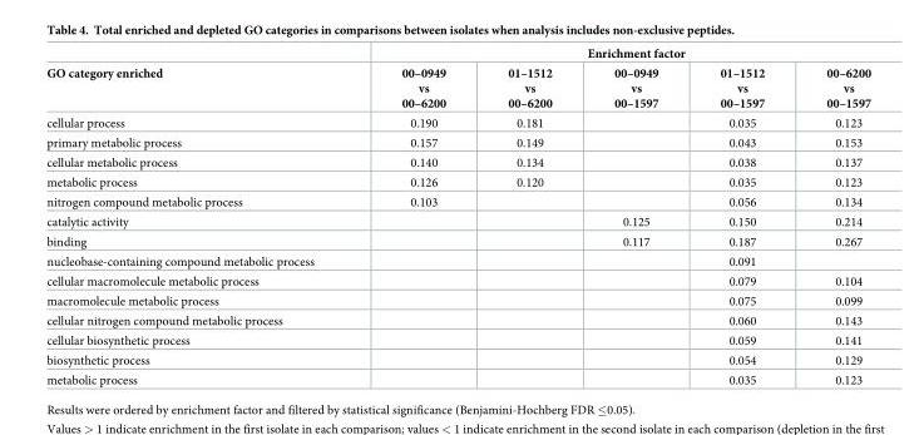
<table><thead><tr><td rowspan="2">GO category enriched</td><td colspan="5">Enrichment factor</td></tr><tr><td>00–0949 vs 00–6200</td><td>01–1512 vs 00–6200</td><td>00–0949 vs 00–1597</td><td>01–1512 vs 00–1597</td><td>00–6200 vs 00–1597</td></tr></thead><tbody><tr><td>cellular process</td><td>0.190</td><td>0.181</td><td></td><td>0.035</td><td>0.123</td></tr><tr><td>primary metabolic process</td><td>0.157</td><td>0.149</td><td></td><td>0.043</td><td>0.153</td></tr><tr><td>cellular metabolic process</td><td>0.140</td><td>0.134</td><td></td><td>0.038</td><td>0.137</td></tr><tr><td>metabolic process</td><td>0.126</td><td>0.120</td><td></td><td>0.035</td><td>0.123</td></tr><tr><td>nitrogen compound metabolic process</td><td>0.103</td><td></td><td></td><td>0.056</td><td>0.134</td></tr><tr><td>catalytic activity</td><td></td><td></td><td>0.125</td><td>0.150</td><td>0.214</td></tr><tr><td>binding</td><td></td><td></td><td>0.117</td><td>0.187</td><td>0.267</td></tr><tr><td>nucleobase-containing compound metabolic process</td><td></td><td></td><td></td><td>0.091</td><td></td></tr><tr><td>cellular macromolecule metabolic process</td><td></td><td></td><td></td><td>0.079</td><td>0.104</td></tr><tr><td>macromolecule metabolic process</td><td></td><td></td><td></td><td>0.075</td><td>0.099</td></tr><tr><td>cellular nitrogen compound metabolic process</td><td></td><td></td><td></td><td>0.060</td><td>0.143</td></tr><tr><td>cellular biosynthetic process</td><td></td><td></td><td></td><td>0.059</td><td>0.141</td></tr><tr><td>biosynthetic process</td><td></td><td></td><td></td><td>0.054</td><td>0.129</td></tr><tr><td>metabolic process</td><td></td><td></td><td></td><td>0.035</td><td>0.123</td></tr></tbody></table>